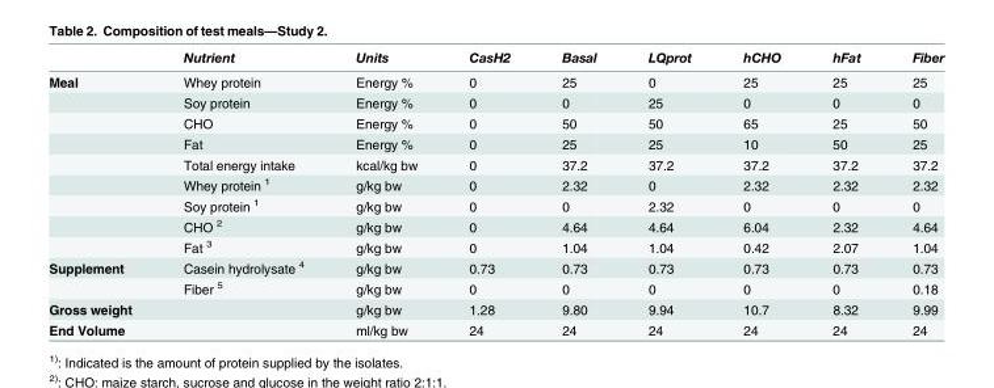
<table><thead><tr><td></td><td>Nutrient</td><td>Units</td><td>CasH2</td><td>Basal</td><td>LQprot</td><td>hCHO</td><td>hFat</td><td>Fiber</td></tr></thead><tbody><tr><td rowspan="9">Meal</td><td>Whey protein</td><td>Energy %</td><td>0</td><td>25</td><td>0</td><td>25</td><td>25</td><td>25</td></tr><tr><td>Soy protein</td><td>Energy %</td><td>0</td><td>0</td><td>25</td><td>0</td><td>0</td><td>0</td></tr><tr><td>CHO</td><td>Energy %</td><td>0</td><td>50</td><td>50</td><td>65</td><td>25</td><td>50</td></tr><tr><td>Fat</td><td>Energy %</td><td>0</td><td>25</td><td>25</td><td>10</td><td>50</td><td>25</td></tr><tr><td>Total energy intake</td><td>kcal/kg bw</td><td>0</td><td>37.2</td><td>37.2</td><td>37.2</td><td>37.2</td><td>37.2</td></tr><tr><td>Whey protein <sup>1</sup></td><td>g/kg bw</td><td>0</td><td>2.32</td><td>0</td><td>2.32</td><td>2.32</td><td>2.32</td></tr><tr><td>Soy protein <sup>1</sup></td><td>g/kg bw</td><td>0</td><td>0</td><td>2.32</td><td>0</td><td>0</td><td>0</td></tr><tr><td>CHO <sup>2</sup></td><td>g/kg bw</td><td>0</td><td>4.64</td><td>4.64</td><td>6.04</td><td>2.32</td><td>4.64</td></tr><tr><td>Fat <sup>3</sup></td><td>g/kg bw</td><td>0</td><td>1.04</td><td>1.04</td><td>0.42</td><td>2.07</td><td>1.04</td></tr><tr><td rowspan="2">Supplement</td><td>Casein hydrolysate <sup>4</sup></td><td>g/kg bw</td><td>0.73</td><td>0.73</td><td>0.73</td><td>0.73</td><td>0.73</td><td>0.73</td></tr><tr><td>Fiber <sup>5</sup></td><td>g/kg bw</td><td>0</td><td>0</td><td>0</td><td>0</td><td>0</td><td>0.18</td></tr><tr><td>Gross weight</td><td></td><td>g/kg bw</td><td>1.28</td><td>9.80</td><td>9.94</td><td>10.7</td><td>8.32</td><td>9.99</td></tr><tr><td>End Volume</td><td></td><td>ml/kg bw</td><td>24</td><td>24</td><td>24</td><td>24</td><td>24</td><td>24</td></tr></tbody></table>